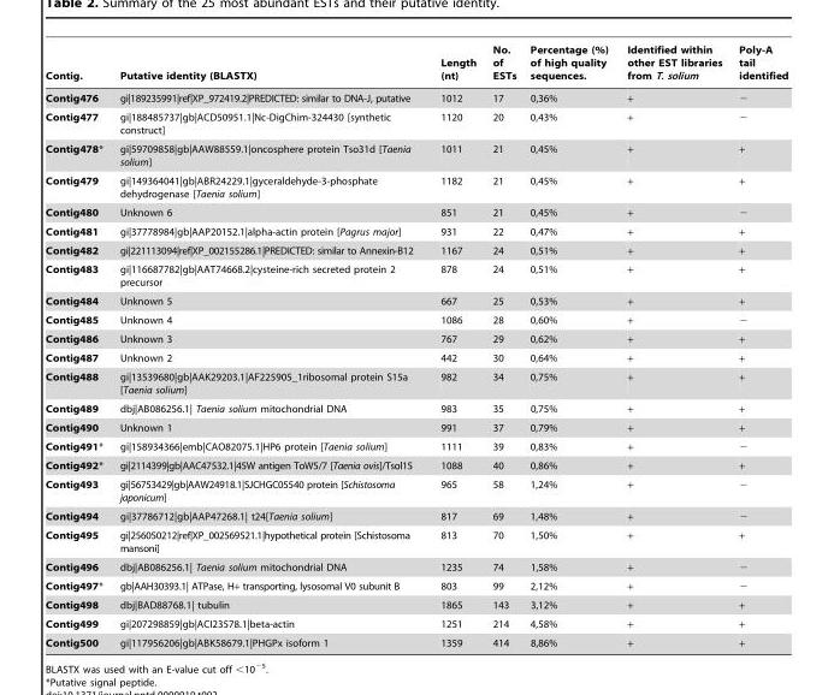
<table><thead><tr><td>Contig.</td><td>Putative identity (BLASTX)</td><td>Length (nt)</td><td>No. of ESTs</td><td>Percentage (%) of high quality sequences.</td><td>Identified within other EST libraries from T. solium</td><td>Poly-A tail identified</td></tr></thead><tbody><tr><td>Contig476</td><td>gi|189235991|ref|XP_972419.2|PREDICTED: similar to DNA-J, putative</td><td>1012</td><td>17</td><td>0,36%</td><td>+</td><td>−</td></tr><tr><td>Contig477</td><td>gi|188485737|gb|ACD50951.1|Nc-DigChim-324430 [synthetic construct]</td><td>1120</td><td>20</td><td>0,43%</td><td>+</td><td>−</td></tr><tr><td>Contig478*</td><td>gi|59709858|gb|AAW88559.1|oncosphere protein Tso31d [Taenia solium]</td><td>1011</td><td>21</td><td>0,45%</td><td>+</td><td>+</td></tr><tr><td>Contig479</td><td>gi|149364041|gb|ABR24229.1|gyceraldehyde-3-phosphate dehydrogenase [Taenia solium]</td><td>1182</td><td>21</td><td>0,45%</td><td>+</td><td>+</td></tr><tr><td>Contig480</td><td>Unknown 6</td><td>851</td><td>21</td><td>0,45%</td><td>+</td><td>−</td></tr><tr><td>Contig481</td><td>gi|37778984|gb|AAP20152.1|alpha-actin protein [Pagrus major]</td><td>931</td><td>22</td><td>0,47%</td><td>+</td><td>+</td></tr><tr><td>Contig482</td><td>gi|221113094|ref|XP_002155286.1|PREDICTED: similar to Annexin-B12</td><td>1167</td><td>24</td><td>0,51%</td><td>+</td><td>+</td></tr><tr><td>Contig483</td><td>gi|116687782|gb|AAT74668.2|cysteine-rich secreted protein 2 precursor</td><td>878</td><td>24</td><td>0,51%</td><td>+</td><td>+</td></tr><tr><td>Contig484</td><td>Unknown 5</td><td>667</td><td>25</td><td>0,53%</td><td>+</td><td>+</td></tr><tr><td>Contig485</td><td>Unknown 4</td><td>1086</td><td>28</td><td>0,60%</td><td>+</td><td>−</td></tr><tr><td>Contig486</td><td>Unknown 3</td><td>767</td><td>29</td><td>0,62%</td><td>+</td><td>+</td></tr><tr><td>Contig487</td><td>Unknown 2</td><td>442</td><td>30</td><td>0,64%</td><td>+</td><td>+</td></tr><tr><td>Contig488</td><td>gi|13539680|gb|AAK29203.1|AF225905_1ribosomal protein S15a [Taenia solium]</td><td>982</td><td>34</td><td>0,75%</td><td>+</td><td>+</td></tr><tr><td>Contig489</td><td>dbj|AB086256.1| Taenia solium mitochondrial DNA</td><td>983</td><td>35</td><td>0,75%</td><td>+</td><td>+</td></tr><tr><td>Contig490</td><td>Unknown 1</td><td>991</td><td>37</td><td>0,79%</td><td>+</td><td>+</td></tr><tr><td>Contig491*</td><td>gi|158934366|emb|CAO82075.1|HP6 protein [Taenia solium]</td><td>1111</td><td>39</td><td>0,83%</td><td>+</td><td>−</td></tr><tr><td>Contig492*</td><td>gi|2114399|gb|AAC47532.1|45W antigen ToW5/7 [Taenia ovis]/Tsol15</td><td>1088</td><td>40</td><td>0,86%</td><td>+</td><td>+</td></tr><tr><td>Contig493</td><td>gi|56753429|gb|AAW24918.1|SJCHGC05540 protein [Schistosoma japonicum]</td><td>965</td><td>58</td><td>1,24%</td><td>+</td><td>−</td></tr><tr><td>Contig494</td><td>gi|37786712|gb|AAP47268.1| t24[Taenia solium]</td><td>817</td><td>69</td><td>1,48%</td><td>+</td><td>−</td></tr><tr><td>Contig495</td><td>gi|256050212|ref|XP_002569521.1|hypothetical protein [Schistosoma mansoni]</td><td>813</td><td>70</td><td>1,50%</td><td>+</td><td>+</td></tr><tr><td>Contig496</td><td>dbj|AB086256.1| Taenia solium mitochondrial DNA</td><td>1235</td><td>74</td><td>1,58%</td><td>+</td><td>−</td></tr><tr><td>Contig497*</td><td>gb|AAH30393.1| ATPase, H+ transporting, lysosomal V0 subunit B</td><td>803</td><td>99</td><td>2,12%</td><td>+</td><td>−</td></tr><tr><td>Contig498</td><td>dbj|BAD88768.1| tubulin</td><td>1865</td><td>143</td><td>3,12%</td><td>+</td><td>+</td></tr><tr><td>Contig499</td><td>gi|207298859|gb|ACI23578.1|beta-actin</td><td>1251</td><td>214</td><td>4,58%</td><td>+</td><td>+</td></tr><tr><td>Contig500</td><td>gi|117956206|gb|ABK58679.1|PHGPx isoform 1</td><td>1359</td><td>414</td><td>8,86%</td><td>+</td><td>+</td></tr></tbody></table>